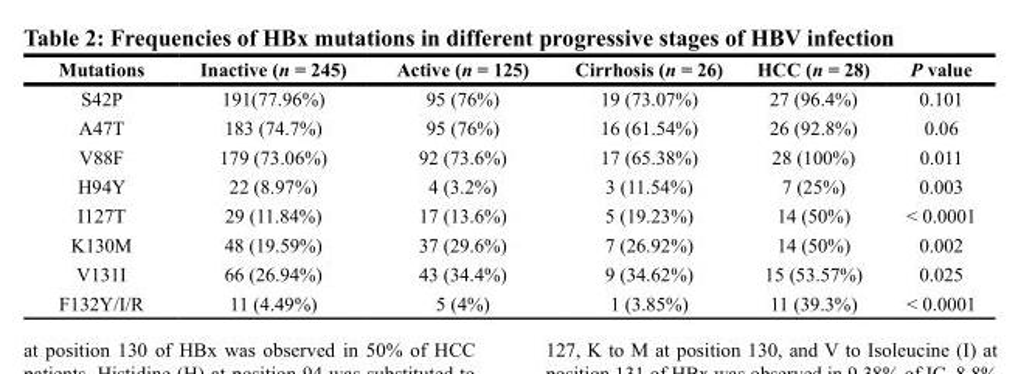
<table><thead><tr><td>Mutations</td><td>Inactive (n = 245)</td><td>Active (n = 125)</td><td>Cirrhosis (n = 26)</td><td>HCC (n = 28)</td><td>P value</td></tr></thead><tbody><tr><td>S42P</td><td>191(77.96%)</td><td>95 (76%)</td><td>19 (73.07%)</td><td>27 (96.4%)</td><td>0.101</td></tr><tr><td>A47T</td><td>183 (74.7%)</td><td>95 (76%)</td><td>16 (61.54%)</td><td>26 (92.8%)</td><td>0.06</td></tr><tr><td>V88F</td><td>179 (73.06%)</td><td>92 (73.6%)</td><td>17 (65.38%)</td><td>28 (100%)</td><td>0.011</td></tr><tr><td>H94Y</td><td>22 (8.97%)</td><td>4 (3.2%)</td><td>3 (11.54%)</td><td>7 (25%)</td><td>0.003</td></tr><tr><td>I127T</td><td>29 (11.84%)</td><td>17 (13.6%)</td><td>5 (19.23%)</td><td>14 (50%)</td><td>&lt; 0.0001</td></tr><tr><td>K130M</td><td>48 (19.59%)</td><td>37 (29.6%)</td><td>7 (26.92%)</td><td>14 (50%)</td><td>0.002</td></tr><tr><td>V131I</td><td>66 (26.94%)</td><td>43 (34.4%)</td><td>9 (34.62%)</td><td>15 (53.57%)</td><td>0.025</td></tr><tr><td>F132Y/I/R</td><td>11 (4.49%)</td><td>5 (4%)</td><td>1 (3.85%)</td><td>11 (39.3%)</td><td>&lt; 0.0001</td></tr></tbody></table>